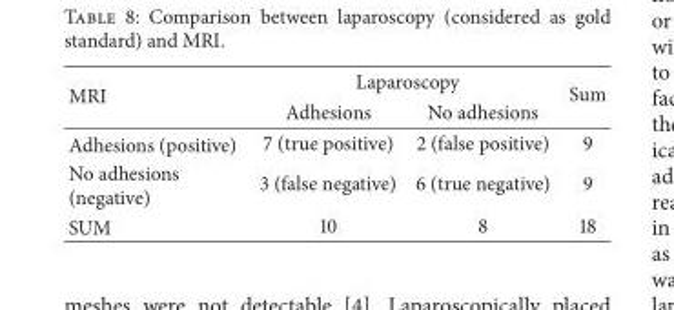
<table><thead><tr><td rowspan="2">MRI</td><td colspan="2">Laparoscopy</td><td rowspan="2">Sum</td></tr><tr><td>Adhesions</td><td>No adhesions</td></tr></thead><tbody><tr><td>Adhesions (positive)</td><td>7 (true positive)</td><td>2 (false positive)</td><td>9</td></tr><tr><td>No adhesions (negative)</td><td>3 (false negative)</td><td>6 (true negative)</td><td>9</td></tr><tr><td>SUM</td><td>10</td><td>8</td><td>18</td></tr></tbody></table>